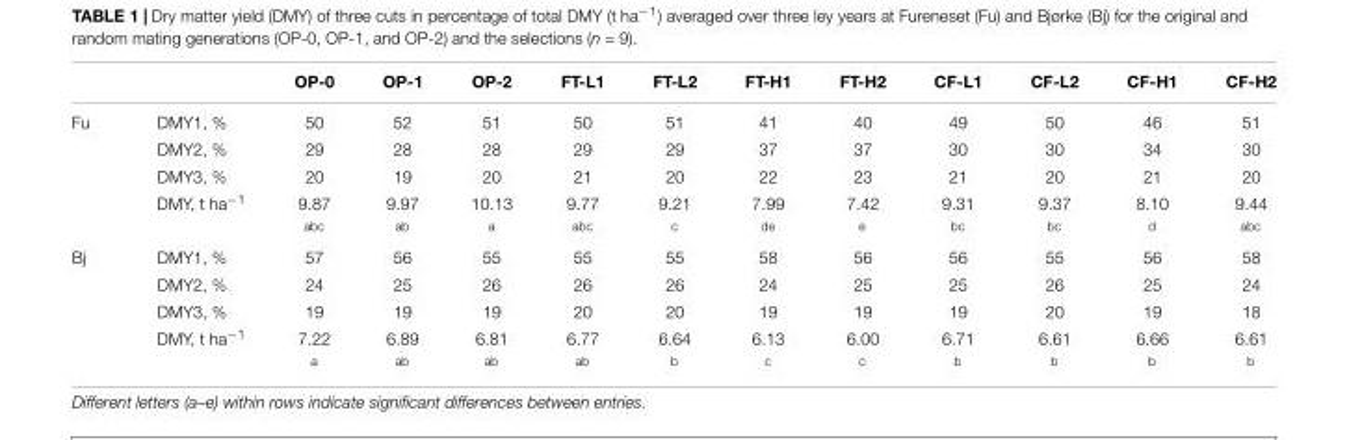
<table><thead><tr><td></td><td></td><td>OP-0</td><td>OP-1</td><td>OP-2</td><td>FT-L1</td><td>FT-L2</td><td>FT-H1</td><td>FT-H2</td><td>CF-L1</td><td>CF-L2</td><td>CF-H1</td><td>CF-H2</td></tr></thead><tbody><tr><td rowspan="5">Fu</td><td>DMY1, %</td><td>50</td><td>52</td><td>51</td><td>50</td><td>51</td><td>41</td><td>40</td><td>49</td><td>50</td><td>46</td><td>51</td></tr><tr><td>DMY2, %</td><td>29</td><td>28</td><td>28</td><td>29</td><td>29</td><td>37</td><td>37</td><td>30</td><td>30</td><td>34</td><td>30</td></tr><tr><td>DMY3, %</td><td>20</td><td>19</td><td>20</td><td>21</td><td>20</td><td>22</td><td>23</td><td>21</td><td>20</td><td>21</td><td>20</td></tr><tr><td>DMY, t ha<sup>−1</sup></td><td>9.87</td><td>9.97</td><td>10.13</td><td>9.77</td><td>9.21</td><td>7.99</td><td>7.42</td><td>9.31</td><td>9.37</td><td>8.10</td><td>9.44</td></tr><tr><td></td><td><sup>abc</sup></td><td><sup>ab</sup></td><td><sup>a</sup></td><td><sup>abc</sup></td><td><sup>c</sup></td><td><sup>de</sup></td><td><sup>e</sup></td><td><sup>bc</sup></td><td><sup>bc</sup></td><td><sup>d</sup></td><td><sup>abc</sup></td></tr><tr><td rowspan="5">Bj</td><td>DMY1, %</td><td>57</td><td>56</td><td>55</td><td>55</td><td>55</td><td>58</td><td>56</td><td>56</td><td>55</td><td>56</td><td>58</td></tr><tr><td>DMY2, %</td><td>24</td><td>25</td><td>26</td><td>26</td><td>26</td><td>24</td><td>25</td><td>25</td><td>26</td><td>25</td><td>24</td></tr><tr><td>DMY3, %</td><td>19</td><td>19</td><td>19</td><td>20</td><td>20</td><td>19</td><td>19</td><td>19</td><td>20</td><td>19</td><td>18</td></tr><tr><td>DMY, t ha<sup>−1</sup></td><td>7.22</td><td>6.89</td><td>6.81</td><td>6.77</td><td>6.64</td><td>6.13</td><td>6.00</td><td>6.71</td><td>6.61</td><td>6.66</td><td>6.61</td></tr><tr><td></td><td><sup>a</sup></td><td><sup>ab</sup></td><td><sup>ab</sup></td><td><sup>ab</sup></td><td><sup>b</sup></td><td><sup>c</sup></td><td><sup>c</sup></td><td><sup>b</sup></td><td><sup>b</sup></td><td><sup>b</sup></td><td><sup>b</sup></td></tr></tbody></table>